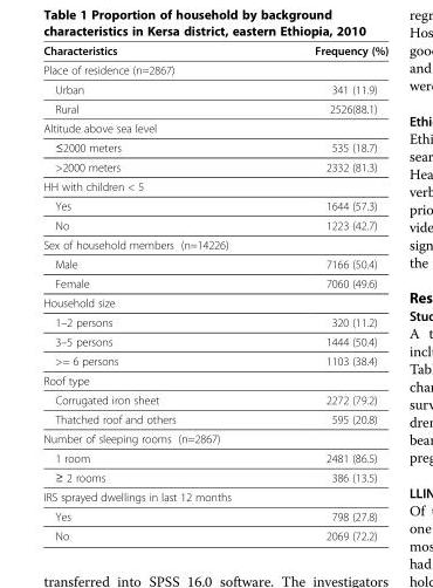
<table><thead><tr><td>Characteristics</td><td>Frequency (%)</td></tr></thead><tbody><tr><td colspan="2">Place of residence (n=2867)</td></tr><tr><td>Urban</td><td>341 (11.9)</td></tr><tr><td>Rural</td><td>2526(88.1)</td></tr><tr><td colspan="2">Altitude above sea level</td></tr><tr><td>≤2000 meters</td><td>535 (18.7)</td></tr><tr><td>&gt;2000 meters</td><td>2332 (81.3)</td></tr><tr><td colspan="2">HH with children &lt; 5</td></tr><tr><td>Yes</td><td>1644 (57.3)</td></tr><tr><td>No</td><td>1223 (42.7)</td></tr><tr><td colspan="2">Sex of household members (n=14226)</td></tr><tr><td>Male</td><td>7166 (50.4)</td></tr><tr><td>Female</td><td>7060 (49.6)</td></tr><tr><td colspan="2">Household size</td></tr><tr><td>1–2 persons</td><td>320 (11.2)</td></tr><tr><td>3–5 persons</td><td>1444 (50.4)</td></tr><tr><td>&gt;= 6 persons</td><td>1103 (38.4)</td></tr><tr><td colspan="2">Roof type</td></tr><tr><td>Corrugated iron sheet</td><td>2272 (79.2)</td></tr><tr><td>Thatched roof and others</td><td>595 (20.8)</td></tr><tr><td colspan="2">Number of sleeping rooms (n=2867)</td></tr><tr><td>1 room</td><td>2481 (86.5)</td></tr><tr><td>≥ 2 rooms</td><td>386 (13.5)</td></tr><tr><td colspan="2">IRS sprayed dwellings in last 12 months</td></tr><tr><td>Yes</td><td>798 (27.8)</td></tr><tr><td>No</td><td>2069 (72.2)</td></tr></tbody></table>